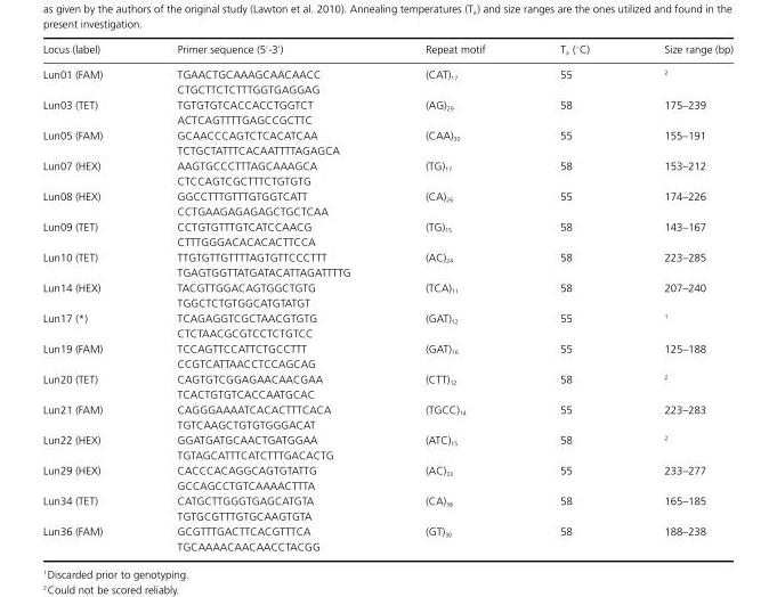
<table><thead><tr><td>Locus (label)</td><td>Primer sequence (5′-3′)</td><td>Repeat motif</td><td>Ta (◦C)</td><td>Size range (bp)</td></tr></thead><tbody><tr><td rowspan="2">Lun01 (FAM)</td><td>TGAACTGCAAAGCAACAACC</td><td>(CAT)<sub>17</sub></td><td>55</td><td>2</td></tr><tr><td>CTGCTTCTCTTTGGTGAGGAG</td><td></td><td></td><td></td></tr><tr><td rowspan="2">Lun03 (TET)</td><td>TGTGTGTCACCACCTGGTCT</td><td>(AG)<sub>29</sub></td><td>58</td><td>175–239</td></tr><tr><td>ACTCAGTTTTGAGCCGCTTC</td><td></td><td></td><td></td></tr><tr><td rowspan="2">Lun05 (FAM)</td><td>GCAACCCAGTCTCACATCAA</td><td>(CAA)<sub>30</sub></td><td>55</td><td>155–191</td></tr><tr><td>TCTGCTATTTCACAATTTTAGAGCA</td><td></td><td></td><td></td></tr><tr><td rowspan="2">Lun07 (HEX)</td><td>AAGTGCCCTTTAGCAAAGCA</td><td>(TG)<sub>17</sub></td><td>58</td><td>153–212</td></tr><tr><td>CTCCAGTCGCTTTCTGTGTG</td><td></td><td></td><td></td></tr><tr><td rowspan="2">Lun08 (HEX)</td><td>GGCCTTTGTTTGTGGTCATT</td><td>(CA)<sub>26</sub></td><td>55</td><td>174–226</td></tr><tr><td>CCTGAAGAGAGAGCTGCTCAA</td><td></td><td></td><td></td></tr><tr><td rowspan="2">Lun09 (TET)</td><td>CCTGTGTTTGTCATCCAACG</td><td>(TG)<sub>15</sub></td><td>58</td><td>143–167</td></tr><tr><td>CTTTGGGACACACACTTCCA</td><td></td><td></td><td></td></tr><tr><td rowspan="2">Lun10 (TET)</td><td>TTGTGTTGTTTTAGTGTTCCCTTT</td><td>(AC)<sub>24</sub></td><td>58</td><td>223–285</td></tr><tr><td>TGAGTGGTTATGATACATTAGATTTTG</td><td></td><td></td><td></td></tr><tr><td rowspan="2">Lun14 (HEX)</td><td>TACGTTGGACAGTGGCTGTG</td><td>(TCA)<sub>11</sub></td><td>58</td><td>207–240</td></tr><tr><td>TGGCTCTGTGGCATGTATGT</td><td></td><td></td><td></td></tr><tr><td rowspan="2">Lun17 (*)</td><td>TCAGAGGTCGCTAACGTGTG</td><td>(GAT)<sub>12</sub></td><td>55</td><td>1</td></tr><tr><td>CTCTAACGCGTCCTCTGTCC</td><td></td><td></td><td></td></tr><tr><td rowspan="2">Lun19 (FAM)</td><td>TCCAGTTCCATTCTGCCTTT</td><td>(GAT)<sub>16</sub></td><td>55</td><td>125–188</td></tr><tr><td>CCGTCATTAACCTCCAGCAG</td><td></td><td></td><td></td></tr><tr><td rowspan="2">Lun20 (TET)</td><td>CAGTGTCGGAGAACAACGAA</td><td>(CTT)<sub>12</sub></td><td>58</td><td>2</td></tr><tr><td>TCACTGTGTCACCAATGCAC</td><td></td><td></td><td></td></tr><tr><td rowspan="2">Lun21 (FAM)</td><td>CAGGGAAAATCACACTTTCACA</td><td>(TGCC)<sub>14</sub></td><td>55</td><td>223–283</td></tr><tr><td>TGTCAAGCTGTGTGGGACAT</td><td></td><td></td><td></td></tr><tr><td rowspan="2">Lun22 (HEX)</td><td>GGATGATGCAACTGATGGAA</td><td>(ATC)<sub>15</sub></td><td>58</td><td>2</td></tr><tr><td>TGTAGCATTTCATCTTTGACACTG</td><td></td><td></td><td></td></tr><tr><td rowspan="2">Lun29 (HEX)</td><td>CACCCACAGGCAGTGTATTG</td><td>(AC)<sub>33</sub></td><td>55</td><td>233–277</td></tr><tr><td>GCCAGCCTGTCAAAACTTTA</td><td></td><td></td><td></td></tr><tr><td rowspan="2">Lun34 (TET)</td><td>CATGCTTGGGTGAGCATGTA</td><td>(CA)<sub>36</sub></td><td>58</td><td>165–185</td></tr><tr><td>TGTGCGTTTGTGCAAGTGTA</td><td></td><td></td><td></td></tr><tr><td rowspan="2">Lun36 (FAM)</td><td>GCGTTTGACTTCACGTTTCA</td><td>(GT)<sub>30</sub></td><td>58</td><td>188–238</td></tr><tr><td>TGCAAAACAACAACCTACGG</td><td></td><td></td><td></td></tr></tbody></table>